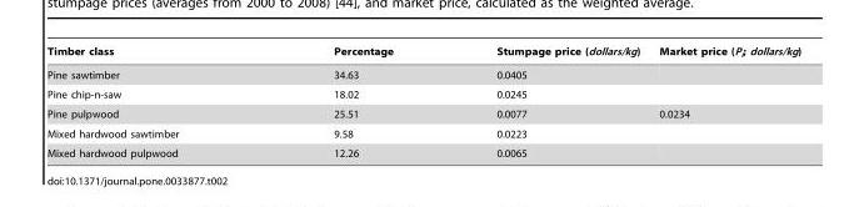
<table><thead><tr><td>Timber class</td><td>Percentage</td><td>Stumpage price (dollars/kg)</td><td>Market price (P<sub>i</sub>; dollars/kg)</td></tr></thead><tbody><tr><td>Pine sawtimber</td><td>34.63</td><td>0.0405</td><td></td></tr><tr><td>Pine chip-n-saw</td><td>18.02</td><td>0.0245</td><td></td></tr><tr><td>Pine pulpwood</td><td>25.51</td><td>0.0077</td><td>0.0234</td></tr><tr><td>Mixed hardwood sawtimber</td><td>9.58</td><td>0.0223</td><td></td></tr><tr><td>Mixed hardwood pulpwood</td><td>12.26</td><td>0.0065</td><td></td></tr></tbody></table>